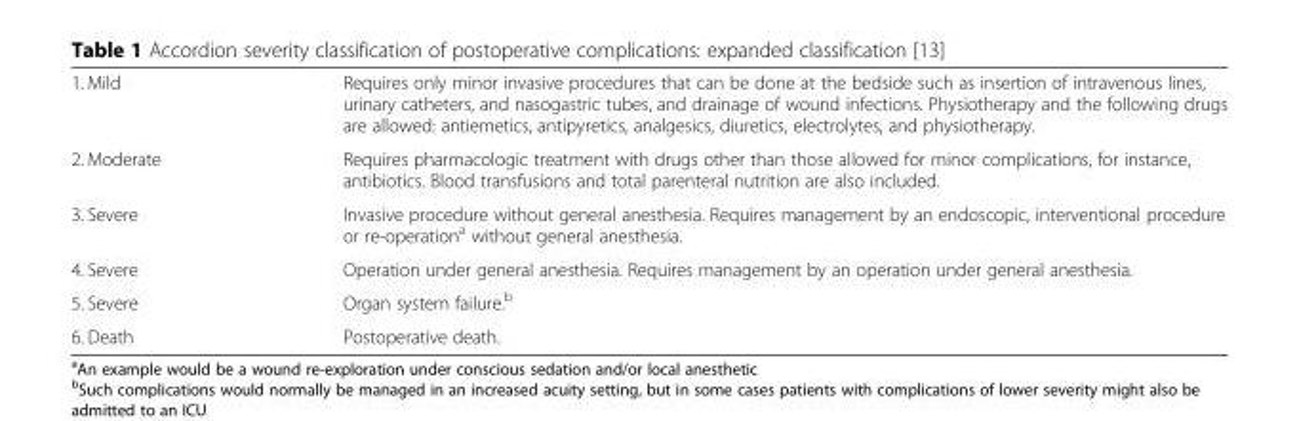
<table><tbody><tr><td>1. Mild</td><td>Requires only minor invasive procedures that can be done at the bedside such as insertion of intravenous lines, urinary catheters, and nasogastric tubes, and drainage of wound infections. Physiotherapy and the following drugs are allowed: antiemetics, antipyretics, analgesics, diuretics, electrolytes, and physiotherapy.</td></tr><tr><td>2. Moderate</td><td>Requires pharmacologic treatment with drugs other than those allowed for minor complications, for instance, antibiotics. Blood transfusions and total parenteral nutrition are also included.</td></tr><tr><td>3. Severe</td><td>Invasive procedure without general anesthesia. Requires management by an endoscopic, interventional procedure or re-operation<sup>a</sup> without general anesthesia.</td></tr><tr><td>4. Severe</td><td>Operation under general anesthesia. Requires management by an operation under general anesthesia.</td></tr><tr><td>5. Severe</td><td>Organ system failure.<sup>b</sup></td></tr><tr><td>6. Death</td><td>Postoperative death.</td></tr></tbody></table>